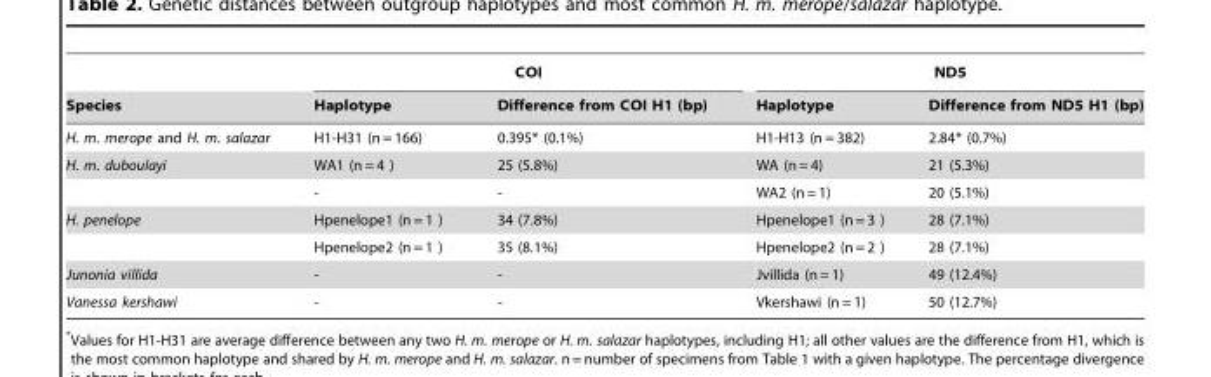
<table><thead><tr><td rowspan="2">Species</td><td colspan="2">COI</td><td colspan="2">ND5</td></tr><tr><td>Haplotype</td><td>Difference from COI H1 (bp)</td><td>Haplotype</td><td>Difference from ND5 H1 (bp)</td></tr></thead><tbody><tr><td>H. m. merope and H. m. salazar</td><td>H1-H31 (n = 166)</td><td>0.395* (0.1%)</td><td>H1-H13 (n = 382)</td><td>2.84* (0.7%)</td></tr><tr><td rowspan="2">H. m. duboulayi</td><td>WA1 (n = 4 )</td><td>25 (5.8%)</td><td>WA (n = 4)</td><td>21 (5.3%)</td></tr><tr><td>-</td><td>-</td><td>WA2 (n = 1)</td><td>20 (5.1%)</td></tr><tr><td rowspan="2">H. penelope</td><td>Hpenelope1 (n = 1 )</td><td>34 (7.8%)</td><td>Hpenelope1 (n = 3 )</td><td>28 (7.1%)</td></tr><tr><td>Hpenelope2 (n = 1 )</td><td>35 (8.1%)</td><td>Hpenelope2 (n = 2 )</td><td>28 (7.1%)</td></tr><tr><td>Junonia villida</td><td>-</td><td>-</td><td>Jvillida (n = 1)</td><td>49 (12.4%)</td></tr><tr><td>Vanessa kershawi</td><td>-</td><td>-</td><td>Vkershawi (n = 1)</td><td>50 (12.7%)</td></tr></tbody></table>